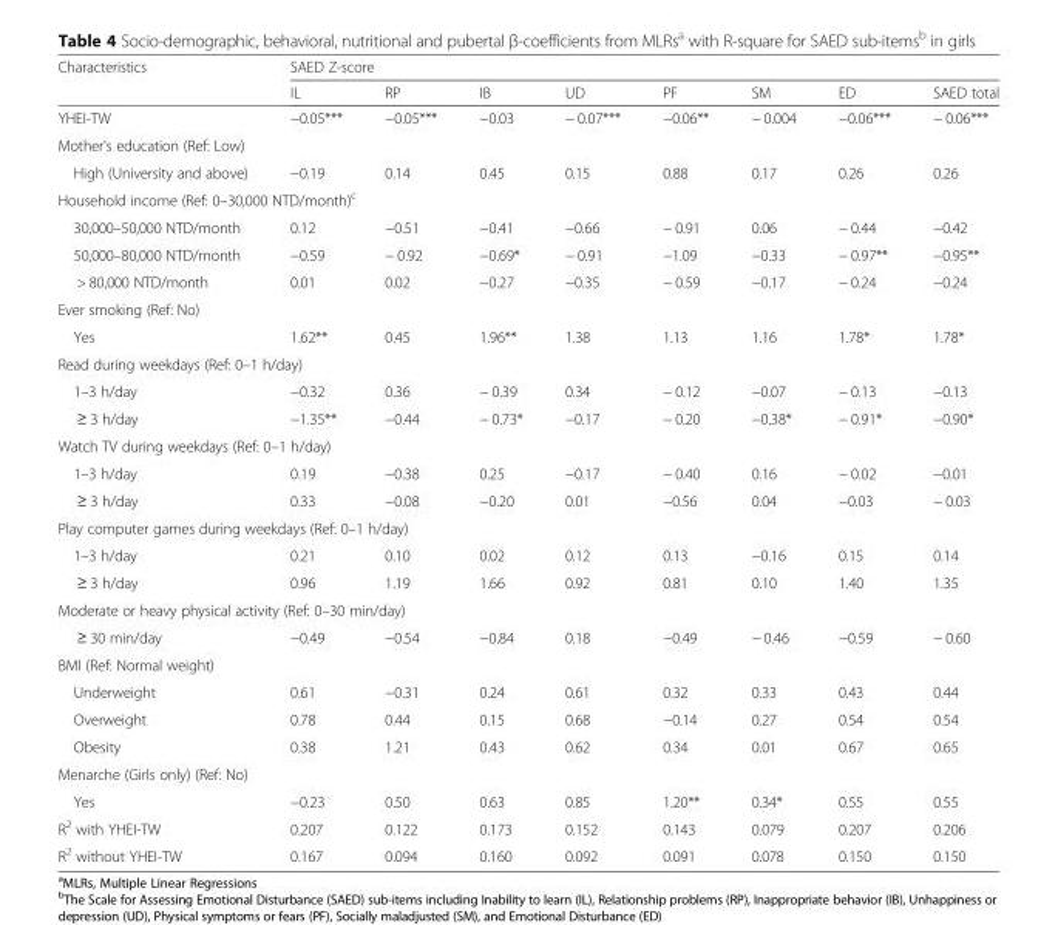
<table><thead><tr><td rowspan="2">Characteristics</td><td colspan="8">SAED Z-score</td></tr><tr><td>IL</td><td>RP</td><td>IB</td><td>UD</td><td>PF</td><td>SM</td><td>ED</td><td>SAED total</td></tr></thead><tbody><tr><td>YHEI-TW</td><td>−0.05***</td><td>−0.05***</td><td>−0.03</td><td>− 0.07***</td><td>−0.06**</td><td>− 0.004</td><td>−0.06***</td><td>− 0.06***</td></tr><tr><td colspan="9">Mother’s education (Ref: Low)</td></tr><tr><td>High (University and above)</td><td>−0.19</td><td>0.14</td><td>0.45</td><td>0.15</td><td>0.88</td><td>0.17</td><td>0.26</td><td>0.26</td></tr><tr><td colspan="9">Household income (Ref: 0–30,000 NTD/month)<sup>c</sup></td></tr><tr><td>30,000–50,000 NTD/month</td><td>0.12</td><td>−0.51</td><td>−0.41</td><td>−0.66</td><td>− 0.91</td><td>0.06</td><td>− 0.44</td><td>−0.42</td></tr><tr><td>50,000–80,000 NTD/month</td><td>−0.59</td><td>− 0.92</td><td>−0.69*</td><td>− 0.91</td><td>−1.09</td><td>−0.33</td><td>− 0.97**</td><td>−0.95**</td></tr><tr><td>&gt; 80,000 NTD/month</td><td>0.01</td><td>0.02</td><td>−0.27</td><td>−0.35</td><td>− 0.59</td><td>−0.17</td><td>− 0.24</td><td>−0.24</td></tr><tr><td colspan="9">Ever smoking (Ref: No)</td></tr><tr><td>Yes</td><td>1.62**</td><td>0.45</td><td>1.96**</td><td>1.38</td><td>1.13</td><td>1.16</td><td>1.78*</td><td>1.78*</td></tr><tr><td colspan="9">Read during weekdays (Ref: 0–1 h/day)</td></tr><tr><td>1–3 h/day</td><td>−0.32</td><td>0.36</td><td>− 0.39</td><td>0.34</td><td>− 0.12</td><td>−0.07</td><td>− 0.13</td><td>−0.13</td></tr><tr><td>≥ 3 h/day</td><td>−1.35**</td><td>−0.44</td><td>− 0.73*</td><td>−0.17</td><td>− 0.20</td><td>−0.38*</td><td>− 0.91*</td><td>−0.90*</td></tr><tr><td colspan="9">Watch TV during weekdays (Ref: 0–1 h/day)</td></tr><tr><td>1–3 h/day</td><td>0.19</td><td>−0.38</td><td>0.25</td><td>−0.17</td><td>− 0.40</td><td>0.16</td><td>− 0.02</td><td>−0.01</td></tr><tr><td>≥ 3 h/day</td><td>0.33</td><td>−0.08</td><td>−0.20</td><td>0.01</td><td>−0.56</td><td>0.04</td><td>−0.03</td><td>− 0.03</td></tr><tr><td colspan="9">Play computer games during weekdays (Ref: 0–1 h/day)</td></tr><tr><td>1–3 h/day</td><td>0.21</td><td>0.10</td><td>0.02</td><td>0.12</td><td>0.13</td><td>−0.16</td><td>0.15</td><td>0.14</td></tr><tr><td>≥ 3 h/day</td><td>0.96</td><td>1.19</td><td>1.66</td><td>0.92</td><td>0.81</td><td>0.10</td><td>1.40</td><td>1.35</td></tr><tr><td colspan="9">Moderate or heavy physical activity (Ref: 0–30 min/day)</td></tr><tr><td>≥ 30 min/day</td><td>−0.49</td><td>−0.54</td><td>−0.84</td><td>0.18</td><td>−0.49</td><td>− 0.46</td><td>−0.59</td><td>− 0.60</td></tr><tr><td colspan="9">BMI (Ref: Normal weight)</td></tr><tr><td>Underweight</td><td>0.61</td><td>−0.31</td><td>0.24</td><td>0.61</td><td>0.32</td><td>0.33</td><td>0.43</td><td>0.44</td></tr><tr><td>Overweight</td><td>0.78</td><td>0.44</td><td>0.15</td><td>0.68</td><td>−0.14</td><td>0.27</td><td>0.54</td><td>0.54</td></tr><tr><td>Obesity</td><td>0.38</td><td>1.21</td><td>0.43</td><td>0.62</td><td>0.34</td><td>0.01</td><td>0.67</td><td>0.65</td></tr><tr><td colspan="9">Menarche (Girls only) (Ref: No)</td></tr><tr><td>Yes</td><td>−0.23</td><td>0.50</td><td>0.63</td><td>0.85</td><td>1.20**</td><td>0.34*</td><td>0.55</td><td>0.55</td></tr><tr><td>R<sup>2</sup> with YHEI-TW</td><td>0.207</td><td>0.122</td><td>0.173</td><td>0.152</td><td>0.143</td><td>0.079</td><td>0.207</td><td>0.206</td></tr><tr><td>R<sup>2</sup> without YHEI-TW</td><td>0.167</td><td>0.094</td><td>0.160</td><td>0.092</td><td>0.091</td><td>0.078</td><td>0.150</td><td>0.150</td></tr></tbody></table>